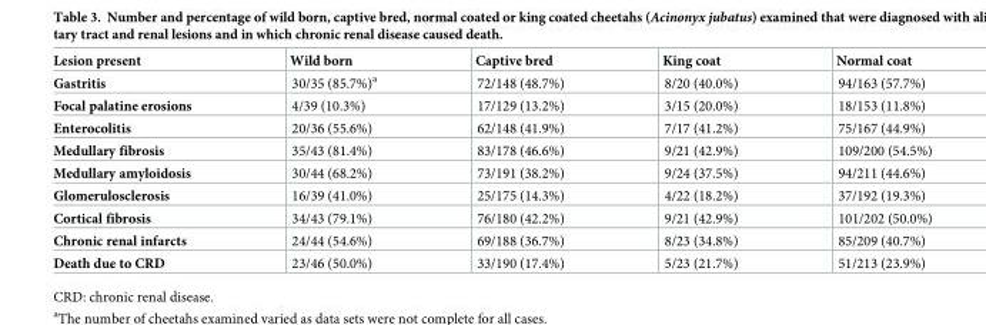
<table><thead><tr><td>Lesion present</td><td>Wild born</td><td>Captive bred</td><td>King coat</td><td>Normal coat</td></tr></thead><tbody><tr><td>Gastritis</td><td>30/35 (85.7%)<sup>a</sup></td><td>72/148 (48.7%)</td><td>8/20 (40.0%)</td><td>94/163 (57.7%)</td></tr><tr><td>Focal palatine erosions</td><td>4/39 (10.3%)</td><td>17/129 (13.2%)</td><td>3/15 (20.0%)</td><td>18/153 (11.8%)</td></tr><tr><td>Enterocolitis</td><td>20/36 (55.6%)</td><td>62/148 (41.9%)</td><td>7/17 (41.2%)</td><td>75/167 (44.9%)</td></tr><tr><td>Medullary fibrosis</td><td>35/43 (81.4%)</td><td>83/178 (46.6%)</td><td>9/21 (42.9%)</td><td>109/200 (54.5%)</td></tr><tr><td>Medullary amyloidosis</td><td>30/44 (68.2%)</td><td>73/191 (38.2%)</td><td>9/24 (37.5%)</td><td>94/211 (44.6%)</td></tr><tr><td>Glomerulosclerosis</td><td>16/39 (41.0%)</td><td>25/175 (14.3%)</td><td>4/22 (18.2%)</td><td>37/192 (19.3%)</td></tr><tr><td>Cortical fibrosis</td><td>34/43 (79.1%)</td><td>76/180 (42.2%)</td><td>9/21 (42.9%)</td><td>101/202 (50.0%)</td></tr><tr><td>Chronic renal infarcts</td><td>24/44 (54.6%)</td><td>69/188 (36.7%)</td><td>8/23 (34.8%)</td><td>85/209 (40.7%)</td></tr><tr><td>Death due to CRD</td><td>23/46 (50.0%)</td><td>33/190 (17.4%)</td><td>5/23 (21.7%)</td><td>51/213 (23.9%)</td></tr></tbody></table>